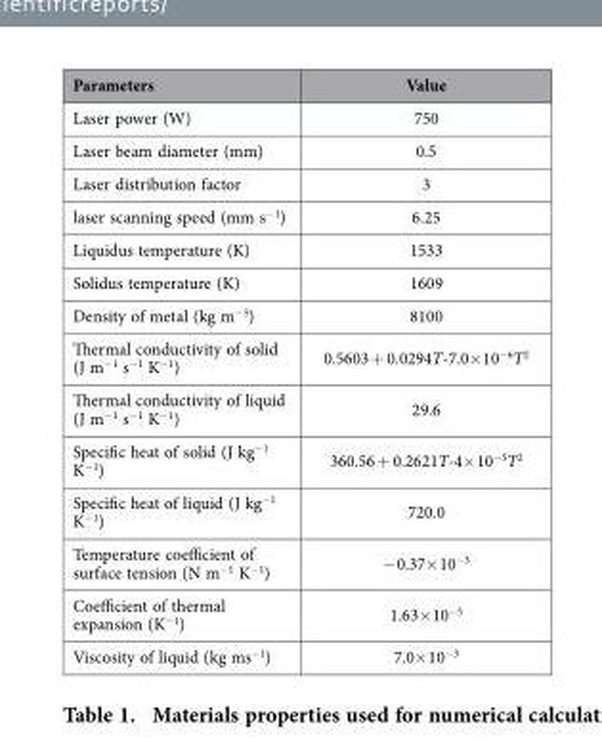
<table><thead><tr><td>Parameters</td><td>Value</td></tr></thead><tbody><tr><td>Laser power (W)</td><td>750</td></tr><tr><td>Laser beam diameter (mm)</td><td>0.5</td></tr><tr><td>Laser distribution factor</td><td>3</td></tr><tr><td>laser scanning speed (mm s<sup>−1</sup>)</td><td>6.25</td></tr><tr><td>Liquidus temperature (K)</td><td>1533</td></tr><tr><td>Solidus temperature (K)</td><td>1609</td></tr><tr><td>Density of metal (kg m<sup>−3</sup>)</td><td>8100</td></tr><tr><td>Thermal conductivity of solid (J m<sup>−1</sup> s<sup>−1</sup> K<sup>−1</sup>)</td><td>0.5603 + 0.0294T-7.0× 10<sup>−6</sup>T<sup>2</sup></td></tr><tr><td>Thermal conductivity of liquid (J m<sup>−1</sup> s<sup>−1</sup> K<sup>−1</sup>)</td><td>29.6</td></tr><tr><td>Specific heat of solid (J kg<sup>−1</sup> K<sup>−1</sup>)</td><td>360.56 + 0.2621T-4× 10<sup>−5</sup>T<sup>2</sup></td></tr><tr><td>Specific heat of liquid (J kg<sup>−1</sup> K<sup>−1</sup>)</td><td>720.0</td></tr><tr><td>Temperature coefficient of surface tension (N m<sup>−1</sup> K<sup>−1</sup>)</td><td>− 0.37× 10<sup>−3</sup></td></tr><tr><td>Coefficient of thermal expansion (K<sup>−1</sup>)</td><td>1.63× 10<sup>−5</sup></td></tr><tr><td>Viscosity of liquid (kg ms<sup>−1</sup>)</td><td>7.0× 10<sup>−3</sup></td></tr></tbody></table>